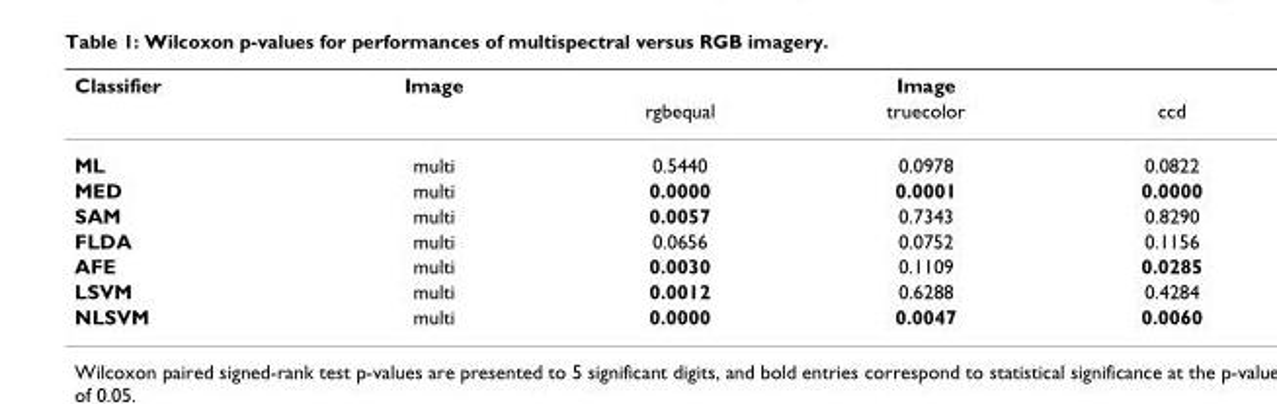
<table><thead><tr><td rowspan="2">Classifier</td><td rowspan="2">Image</td><td colspan="3">Image</td></tr><tr><td>rgbequal</td><td>truecolor</td><td>ccd</td></tr></thead><tbody><tr><td>ML</td><td>multi</td><td>0.5440</td><td>0.0978</td><td>0.0822</td></tr><tr><td>MED</td><td>multi</td><td>0.0000</td><td>0.0001</td><td>0.0000</td></tr><tr><td>SAM</td><td>multi</td><td>0.0057</td><td>0.7343</td><td>0.8290</td></tr><tr><td>FLDA</td><td>multi</td><td>0.0656</td><td>0.0752</td><td>0.1156</td></tr><tr><td>AFE</td><td>multi</td><td>0.0030</td><td>0.1109</td><td>0.0285</td></tr><tr><td>LSVM</td><td>multi</td><td>0.0012</td><td>0.6288</td><td>0.4284</td></tr><tr><td>NLSVM</td><td>multi</td><td>0.0000</td><td>0.0047</td><td>0.0060</td></tr></tbody></table>